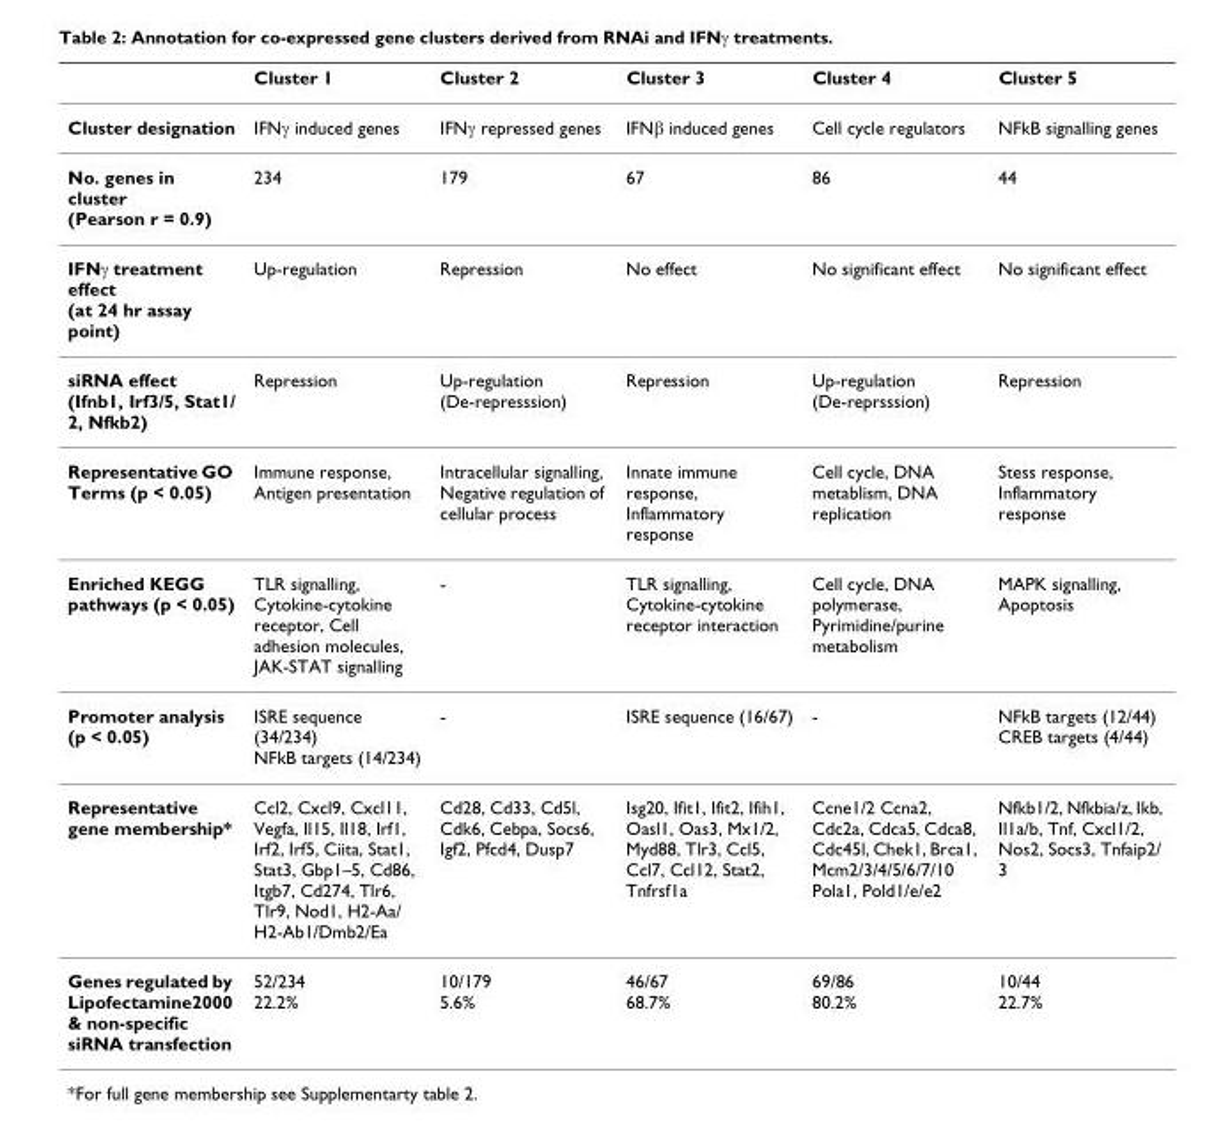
<table><thead><tr><td></td><td>Cluster 1</td><td>Cluster 2</td><td>Cluster 3</td><td>Cluster 4</td><td>Cluster 5</td></tr></thead><tbody><tr><td>Cluster designation</td><td>IFNγ induced genes</td><td>IFNγ repressed genes</td><td>IFNβ induced genes</td><td>Cell cycle regulators</td><td>NFkB signalling genes</td></tr><tr><td>No. genes in cluster (Pearson r = 0.9)</td><td>234</td><td>179</td><td>67</td><td>86</td><td>44</td></tr><tr><td>IFNγ treatment effect (at 24 hr assay point)</td><td>Up-regulation</td><td>Repression</td><td>No effect</td><td>No significant effect</td><td>No significant effect</td></tr><tr><td>siRNA effect (Ifnb1, Irf3/5, Stat1/ 2, Nfkb2)</td><td>Repression</td><td>Up-regulation (De-represssion)</td><td>Repression</td><td>Up-regulation (De-reprsssion)</td><td>Repression</td></tr><tr><td>Representative GO Terms (p &lt; 0.05)</td><td>Immune response, Antigen presentation</td><td>Intracellular signalling, Negative regulation of cellular process</td><td>Innate immune response, Inflammatory response</td><td>Cell cycle, DNA metablism, DNA replication</td><td>Stess response, Inflammatory response</td></tr><tr><td>Enriched KEGG pathways (p &lt; 0.05)</td><td>TLR signalling, Cytokine-cytokine receptor, Cell adhesion molecules, JAK-STAT signalling</td><td>-</td><td>TLR signalling, Cytokine-cytokine receptor interaction</td><td>Cell cycle, DNA polymerase, Pyrimidine/purine metabolism</td><td>MAPK signalling, Apoptosis</td></tr><tr><td>Promoter analysis (p &lt; 0.05)</td><td>ISRE sequence (34/234) NFkB targets (14/234)</td><td>-</td><td>ISRE sequence (16/67)</td><td>-</td><td>NFkB targets (12/44) CREB targets (4/44)</td></tr><tr><td>Representative gene membership*</td><td>Ccl2, Cxcl9, Cxcl11, Vegfa, Il15, Il18, Irf1, Irf2, Irf5, Ciita, Stat1, Stat3, Gbp1–5, Cd86, Itgb7, Cd274, Tlr6, Tlr9, Nod1, H2-Aa/ H2-Ab1/Dmb2/Ea</td><td>Cd28, Cd33, Cd5l, Cdk6, Cebpa, Socs6, Igf2, Pfcd4, Dusp7</td><td>Isg20, Ifit1, Ifit2, Ifih1, Oasl1, Oas3, Mx1/2, Myd88, Tlr3, Ccl5, Ccl7, Ccl12, Stat2, Tnfrsf1a</td><td>Ccne1/2 Ccna2, Cdc2a, Cdca5, Cdca8, Cdc45l, Chek1, Brca1, Mcm2/3/4/5/6/7/10 Pola1, Pold1/e/e2</td><td>Nfkb1/2, Nfkbia/z, Ikb, Il1a/b, Tnf, Cxcl1/2, Nos2, Socs3, Tnfaip2/ 3</td></tr><tr><td>Genes regulated by Lipofectamine2000 &amp; non-specific siRNA transfection</td><td>52/234 22.2%</td><td>10/179 5.6%</td><td>46/67 68.7%</td><td>69/86 80.2%</td><td>10/44 22.7%</td></tr></tbody></table>